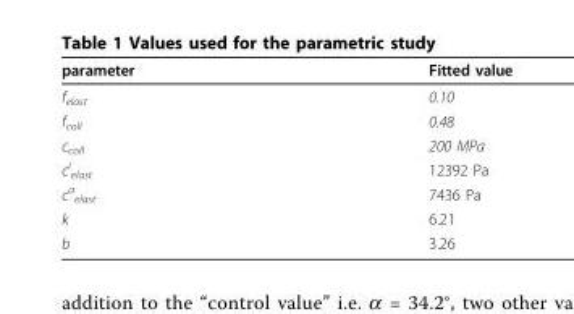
<table><thead><tr><td>parameter</td><td>Fitted value</td></tr></thead><tbody><tr><td>f<sub>elast</sub></td><td>0.10</td></tr><tr><td>f<sub>coll</sub></td><td>0.48</td></tr><tr><td>c<sub>coll</sub></td><td>200 MPa</td></tr><tr><td>c<sup>i</sup> <sub>elast</sub></td><td>12392 Pa</td></tr><tr><td>c<sup>a</sup> <sub>elast</sub></td><td>7436 Pa</td></tr><tr><td>k</td><td>6.21</td></tr><tr><td>b</td><td>3.26</td></tr></tbody></table>